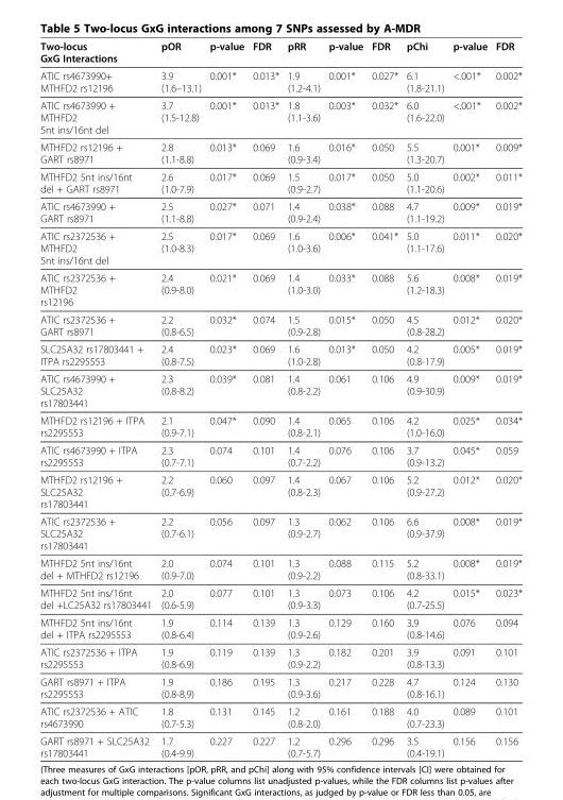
<table><thead><tr><td>Two-locus GxG Interactions</td><td>pOR</td><td>p-value</td><td>FDR</td><td>pRR</td><td>p-value</td><td>FDR</td><td>pChi</td><td>p-value</td><td>FDR</td></tr></thead><tbody><tr><td>ATIC rs4673990+ MTHFD2 rs12196</td><td>3.9 (1.6–13.1)</td><td>0.001*</td><td>0.013*</td><td>1.9 (1.2-4.1)</td><td>0.001*</td><td>0.027*</td><td>6.1 (1.8-21.1)</td><td>&lt;.001*</td><td>0.002*</td></tr><tr><td>ATIC rs4673990 + MTHFD2 5nt ins/16nt del</td><td>3.7 (1.5-12.8)</td><td>0.001*</td><td>0.013*</td><td>1.8 (1.1-3.6)</td><td>0.003*</td><td>0.032*</td><td>6.0 (1.6-22.0)</td><td>&lt;.001*</td><td>0.002*</td></tr><tr><td>MTHFD2 rs12196 + GART rs8971</td><td>2.8 (1.1-8.8)</td><td>0.013*</td><td>0.069</td><td>1.6 (0.9-3.4)</td><td>0.016*</td><td>0.050</td><td>5.5 (1.3-20.7)</td><td>0.001*</td><td>0.009*</td></tr><tr><td>MTHFD2 5nt ins/16nt del + GART rs8971</td><td>2.6 (1.0-7.9)</td><td>0.017*</td><td>0.069</td><td>1.5 (0.9-2.7)</td><td>0.017*</td><td>0.050</td><td>5.0 (1.1-20.6)</td><td>0.002*</td><td>0.011*</td></tr><tr><td>ATIC rs4673990 + GART rs8971</td><td>2.5 (1.1-8.8)</td><td>0.027*</td><td>0.071</td><td>1.4 (0.9-2.4)</td><td>0.038*</td><td>0.088</td><td>4.7 (1.1-19.2)</td><td>0.009*</td><td>0.019*</td></tr><tr><td>ATIC rs2372536 + MTHFD2 5nt ins/16nt del</td><td>2.5 (1.0-8.3)</td><td>0.017*</td><td>0.069</td><td>1.6 (1.0-3.6)</td><td>0.006*</td><td>0.041*</td><td>5.0 (1.1-17.6)</td><td>0.011*</td><td>0.020*</td></tr><tr><td>ATIC rs2372536 + MTHFD2 rs12196</td><td>2.4 (0.9-8.0)</td><td>0.021*</td><td>0.069</td><td>1.4 (1.0-3.0)</td><td>0.033*</td><td>0.088</td><td>5.6 (1.2-18.3)</td><td>0.008*</td><td>0.019*</td></tr><tr><td>ATIC rs2372536 + GART rs8971</td><td>2.2 (0.8-6.5)</td><td>0.032*</td><td>0.074</td><td>1.5 (0.9-2.8)</td><td>0.015*</td><td>0.050</td><td>4.5 (0.8-28.2)</td><td>0.012*</td><td>0.020*</td></tr><tr><td>SLC25A32 rs17803441 + ITPA rs2295553</td><td>2.4 (0.8-7.5)</td><td>0.023*</td><td>0.069</td><td>1.6 (1.0-2.8)</td><td>0.013*</td><td>0.050</td><td>4.2 (0.8-17.9)</td><td>0.005*</td><td>0.019*</td></tr><tr><td>ATIC rs4673990 + SLC25A32 rs17803441</td><td>2.3 (0.8-8.2)</td><td>0.039*</td><td>0.081</td><td>1.4 (0.8-2.2)</td><td>0.061</td><td>0.106</td><td>4.9 (0.9-30.9)</td><td>0.009*</td><td>0.019*</td></tr><tr><td>MTHFD2 rs12196 + ITPA rs2295553</td><td>2.1 (0.9-7.1)</td><td>0.047*</td><td>0.090</td><td>1.4 (0.8-2.1)</td><td>0.065</td><td>0.106</td><td>4.2 (1.0-16.0)</td><td>0.025*</td><td>0.034*</td></tr><tr><td>ATIC rs4673990 + ITPA rs2295553</td><td>2.3 (0.7-7.1)</td><td>0.074</td><td>0.101</td><td>1.4 (0.7-2.2)</td><td>0.076</td><td>0.106</td><td>3.7 (0.9-13.2)</td><td>0.045*</td><td>0.059</td></tr><tr><td>MTHFD2 rs12196 + SLC25A32 rs17803441</td><td>2.2 (0.7-6.9)</td><td>0.060</td><td>0.097</td><td>1.4 (0.8-2.3)</td><td>0.067</td><td>0.106</td><td>5.2 (0.9-27.2)</td><td>0.012*</td><td>0.020*</td></tr><tr><td>ATIC rs2372536 + SLC25A32 rs17803441</td><td>2.2 (0.7-6.1)</td><td>0.056</td><td>0.097</td><td>1.3 (0.9-2.7)</td><td>0.062</td><td>0.106</td><td>6.6 (0.9-37.9)</td><td>0.008*</td><td>0.019*</td></tr><tr><td>MTHFD2 5nt ins/16nt del + MTHFD2 rs12196</td><td>2.0 (0.9-7.0)</td><td>0.074</td><td>0.101</td><td>1.3 (0.9-2.2)</td><td>0.088</td><td>0.115</td><td>5.2 (0.8-33.1)</td><td>0.008*</td><td>0.019*</td></tr><tr><td>MTHFD2 5nt ins/16nt del +LC25A32 rs17803441</td><td>2.0 (0.6-5.9)</td><td>0.077</td><td>0.101</td><td>1.3 (0.9-3.3)</td><td>0.073</td><td>0.106</td><td>4.2 (0.7-25.5)</td><td>0.015*</td><td>0.023*</td></tr><tr><td>MTHFD2 5nt ins/16nt del + ITPA rs2295553</td><td>1.9 (0.8-6.4)</td><td>0.114</td><td>0.139</td><td>1.3 (0.9-2.6)</td><td>0.129</td><td>0.160</td><td>3.9 (0.8-14.6)</td><td>0.076</td><td>0.094</td></tr><tr><td>ATIC rs2372536 + ITPA rs2295553</td><td>1.9 (0.8-6.9)</td><td>0.119</td><td>0.139</td><td>1.3 (0.9-2.2)</td><td>0.182</td><td>0.201</td><td>3.9 (0.8-13.3)</td><td>0.091</td><td>0.101</td></tr><tr><td>GART rs8971 + ITPA rs2295553</td><td>1.9 (0.8-8.9)</td><td>0.186</td><td>0.195</td><td>1.3 (0.9-3.6)</td><td>0.217</td><td>0.228</td><td>4.7 (0.8-16.1)</td><td>0.124</td><td>0.130</td></tr><tr><td>ATIC rs2372536 + ATIC rs4673990</td><td>1.8 (0.7-5.3)</td><td>0.131</td><td>0.145</td><td>1.2 (0.8-2.0)</td><td>0.161</td><td>0.188</td><td>4.0 (0.7-23.3)</td><td>0.089</td><td>0.101</td></tr><tr><td>GART rs8971 + SLC25A32 rs17803441</td><td>1.7 (0.4-9.9)</td><td>0.227</td><td>0.227</td><td>1.2 (0.7-5.7)</td><td>0.296</td><td>0.296</td><td>3.5 (0.4-19.1)</td><td>0.156</td><td>0.156</td></tr></tbody></table>